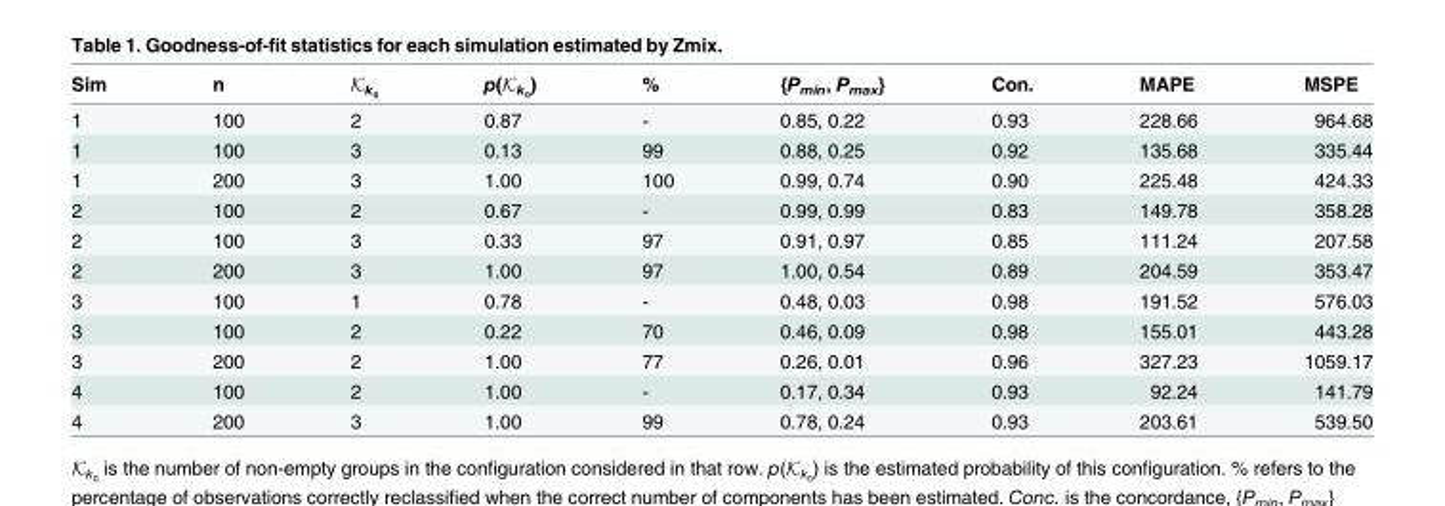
<table><thead><tr><td>Sim</td><td>n</td><td>Kk0</td><td>p(Kk0)</td><td>%</td><td>{P<sub>min</sub>, P<sub>max</sub>}</td><td>Con.</td><td>MAPE</td><td>MSPE</td></tr></thead><tbody><tr><td>1</td><td>100</td><td>2</td><td>0.87</td><td>-</td><td>0.85, 0.22</td><td>0.93</td><td>228.66</td><td>964.68</td></tr><tr><td>1</td><td>100</td><td>3</td><td>0.13</td><td>99</td><td>0.88, 0.25</td><td>0.92</td><td>135.68</td><td>335.44</td></tr><tr><td>1</td><td>200</td><td>3</td><td>1.00</td><td>100</td><td>0.99, 0.74</td><td>0.90</td><td>225.48</td><td>424.33</td></tr><tr><td>2</td><td>100</td><td>2</td><td>0.67</td><td>-</td><td>0.99, 0.99</td><td>0.83</td><td>149.78</td><td>358.28</td></tr><tr><td>2</td><td>100</td><td>3</td><td>0.33</td><td>97</td><td>0.91, 0.97</td><td>0.85</td><td>111.24</td><td>207.58</td></tr><tr><td>2</td><td>200</td><td>3</td><td>1.00</td><td>97</td><td>1.00, 0.54</td><td>0.89</td><td>204.59</td><td>353.47</td></tr><tr><td>3</td><td>100</td><td>1</td><td>0.78</td><td>-</td><td>0.48, 0.03</td><td>0.98</td><td>191.52</td><td>576.03</td></tr><tr><td>3</td><td>100</td><td>2</td><td>0.22</td><td>70</td><td>0.46, 0.09</td><td>0.98</td><td>155.01</td><td>443.28</td></tr><tr><td>3</td><td>200</td><td>2</td><td>1.00</td><td>77</td><td>0.26, 0.01</td><td>0.96</td><td>327.23</td><td>1059.17</td></tr><tr><td>4</td><td>100</td><td>2</td><td>1.00</td><td>-</td><td>0.17, 0.34</td><td>0.93</td><td>92.24</td><td>141.79</td></tr><tr><td>4</td><td>200</td><td>3</td><td>1.00</td><td>99</td><td>0.78, 0.24</td><td>0.93</td><td>203.61</td><td>539.50</td></tr></tbody></table>